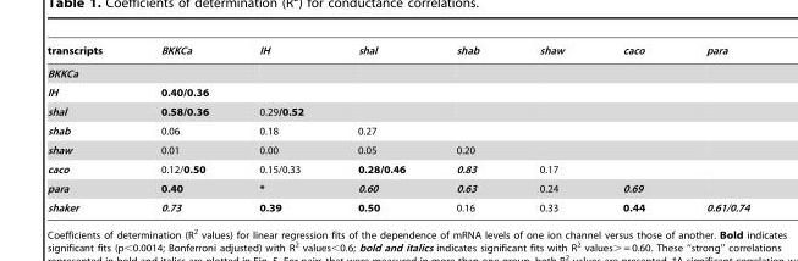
<table><thead><tr><td>transcripts</td><td>BKKCa</td><td>IH</td><td>shal</td><td>shab</td><td>shaw</td><td>caco</td><td>para</td></tr></thead><tbody><tr><td colspan="8">BKKCa</td></tr><tr><td>IH</td><td>0.40/0.36</td><td></td><td></td><td></td><td></td><td></td><td></td></tr><tr><td>shal</td><td>0.58/0.36</td><td>0.29/0.52</td><td></td><td></td><td></td><td></td><td></td></tr><tr><td>shab</td><td>0.06</td><td>0.18</td><td>0.27</td><td></td><td></td><td></td><td></td></tr><tr><td>shaw</td><td>0.01</td><td>0.00</td><td>0.05</td><td>0.20</td><td></td><td></td><td></td></tr><tr><td>caco</td><td>0.12/0.50</td><td>0.15/0.33</td><td>0.28/0.46</td><td>0.83</td><td>0.17</td><td></td><td></td></tr><tr><td>para</td><td>0.40</td><td>*</td><td>0.60</td><td>0.63</td><td>0.24</td><td>0.69</td><td></td></tr><tr><td>shaker</td><td>0.73</td><td>0.39</td><td>0.50</td><td>0.16</td><td>0.33</td><td>0.44</td><td>0.61/0.74</td></tr></tbody></table>